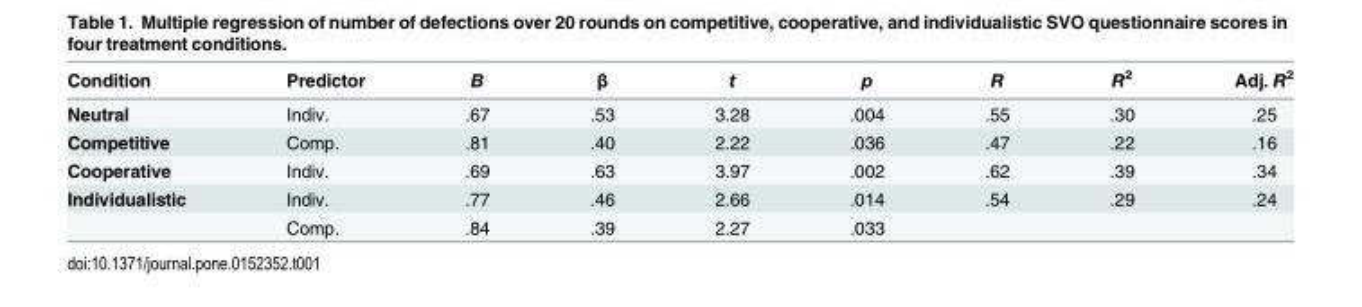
<table><thead><tr><td>Condition</td><td>Predictor</td><td>B</td><td>β</td><td>t</td><td>p</td><td>R</td><td>R<sup>2</sup></td><td>Adj. R<sup>2</sup></td></tr></thead><tbody><tr><td>Neutral</td><td>Indiv.</td><td>.67</td><td>.53</td><td>3.28</td><td>.004</td><td>.55</td><td>.30</td><td>.25</td></tr><tr><td>Competitive</td><td>Comp.</td><td>.81</td><td>.40</td><td>2.22</td><td>.036</td><td>.47</td><td>.22</td><td>.16</td></tr><tr><td>Cooperative</td><td>Indiv.</td><td>.69</td><td>.63</td><td>3.97</td><td>.002</td><td>.62</td><td>.39</td><td>.34</td></tr><tr><td rowspan="2">Individualistic</td><td>Indiv.</td><td>.77</td><td>.46</td><td>2.66</td><td>.014</td><td>.54</td><td>.29</td><td>.24</td></tr><tr><td>Comp.</td><td>.84</td><td>.39</td><td>2.27</td><td>.033</td><td></td><td></td><td></td></tr></tbody></table>